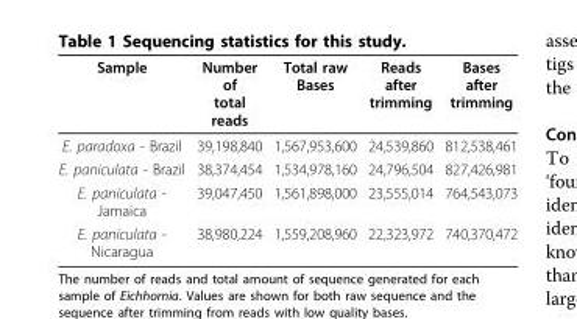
<table><thead><tr><td>Sample</td><td>Number of total reads</td><td>Total raw Bases</td><td>Reads after trimming</td><td>Bases after trimming</td></tr></thead><tbody><tr><td>E. paradoxa - Brazil</td><td>39,198,840</td><td>1,567,953,600</td><td>24,539,860</td><td>812,538,461</td></tr><tr><td>E. paniculata - Brazil</td><td>38,374,454</td><td>1,534,978,160</td><td>24,796,504</td><td>827,426,981</td></tr><tr><td>E. paniculata - Jamaica</td><td>39,047,450</td><td>1,561,898,000</td><td>23,555,014</td><td>764,543,073</td></tr><tr><td>E. paniculata - Nicaragua</td><td>38,980,224</td><td>1,559,208,960</td><td>22,323,972</td><td>740,370,472</td></tr></tbody></table>